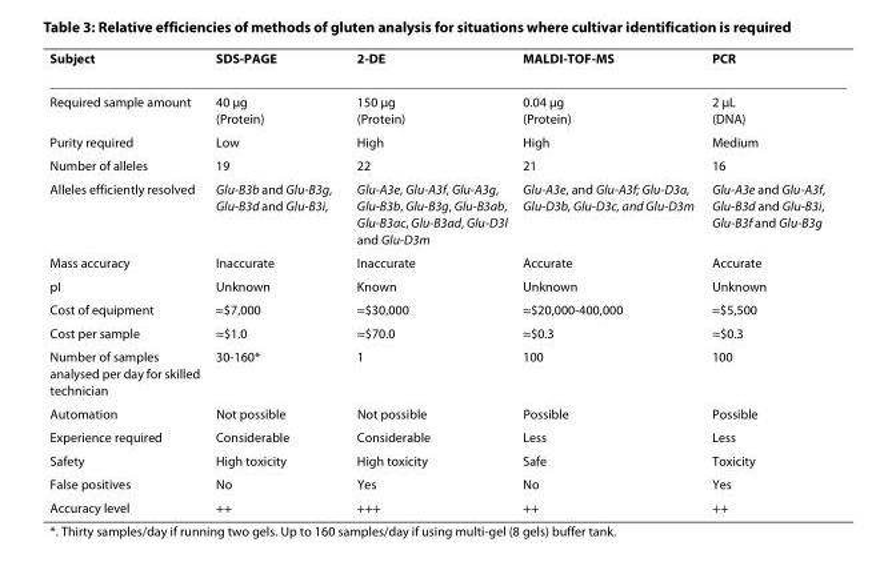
<table><thead><tr><td>Subject</td><td>SDS-PAGE</td><td>2-DE</td><td>MALDI-TOF-MS</td><td>PCR</td></tr></thead><tbody><tr><td>Required sample amount</td><td>40 μg (Protein)</td><td>150 μg (Protein)</td><td>0.04 μg (Protein)</td><td>2 μL (DNA)</td></tr><tr><td>Purity required</td><td>Low</td><td>High</td><td>High</td><td>Medium</td></tr><tr><td>Number of alleles</td><td>19</td><td>22</td><td>21</td><td>16</td></tr><tr><td>Alleles efficiently resolved</td><td>Glu-B3b and Glu-B3g, Glu-B3d and Glu-B3i,</td><td>Glu-A3e, Glu-A3f, Glu-A3g, Glu-B3b, Glu-B3g, Glu-B3ab, Glu-B3ac, Glu-B3ad, Glu-D3l and Glu-D3m</td><td>Glu-A3e, and Glu-A3f; Glu-D3a, Glu-D3b, Glu-D3c, and Glu-D3m</td><td>Glu-A3e and Glu-A3f, Glu-B3d and Glu-B3i, Glu-B3f and Glu-B3g</td></tr><tr><td>Mass accuracy</td><td>Inaccurate</td><td>Inaccurate</td><td>Accurate</td><td>Accurate</td></tr><tr><td>pI</td><td>Unknown</td><td>Known</td><td>Unknown</td><td>Unknown</td></tr><tr><td>Cost of equipment</td><td>≈$7,000</td><td>≈$30,000</td><td>≈$20,000-400,000</td><td>≈$5,500</td></tr><tr><td>Cost per sample</td><td>≈$1.0</td><td>≈$70.0</td><td>≈$0.3</td><td>≈$0.3</td></tr><tr><td>Number of samples analysed per day for skilled technician</td><td>30-160*</td><td>1</td><td>100</td><td>100</td></tr><tr><td>Automation</td><td>Not possible</td><td>Not possible</td><td>Possible</td><td>Possible</td></tr><tr><td>Experience required</td><td>Considerable</td><td>Considerable</td><td>Less</td><td>Less</td></tr><tr><td>Safety</td><td>High toxicity</td><td>High toxicity</td><td>Safe</td><td>Toxicity</td></tr><tr><td>False positives</td><td>No</td><td>Yes</td><td>No</td><td>Yes</td></tr><tr><td>Accuracy level</td><td>++</td><td>+++</td><td>++</td><td>++</td></tr></tbody></table>